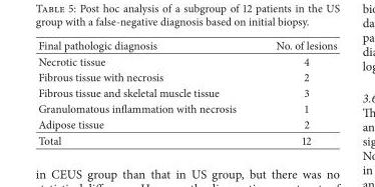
<table><thead><tr><td>Final pathologic diagnosis</td><td>No. of lesions</td></tr></thead><tbody><tr><td>Necrotic tissue</td><td>4</td></tr><tr><td>Fibrous tissue with necrosis</td><td>2</td></tr><tr><td>Fibrous tissue and skeletal muscle tissue</td><td>3</td></tr><tr><td>Granulomatous inflammation with necrosis</td><td>1</td></tr><tr><td>Adipose tissue</td><td>2</td></tr><tr><td>Total</td><td>12</td></tr></tbody></table>